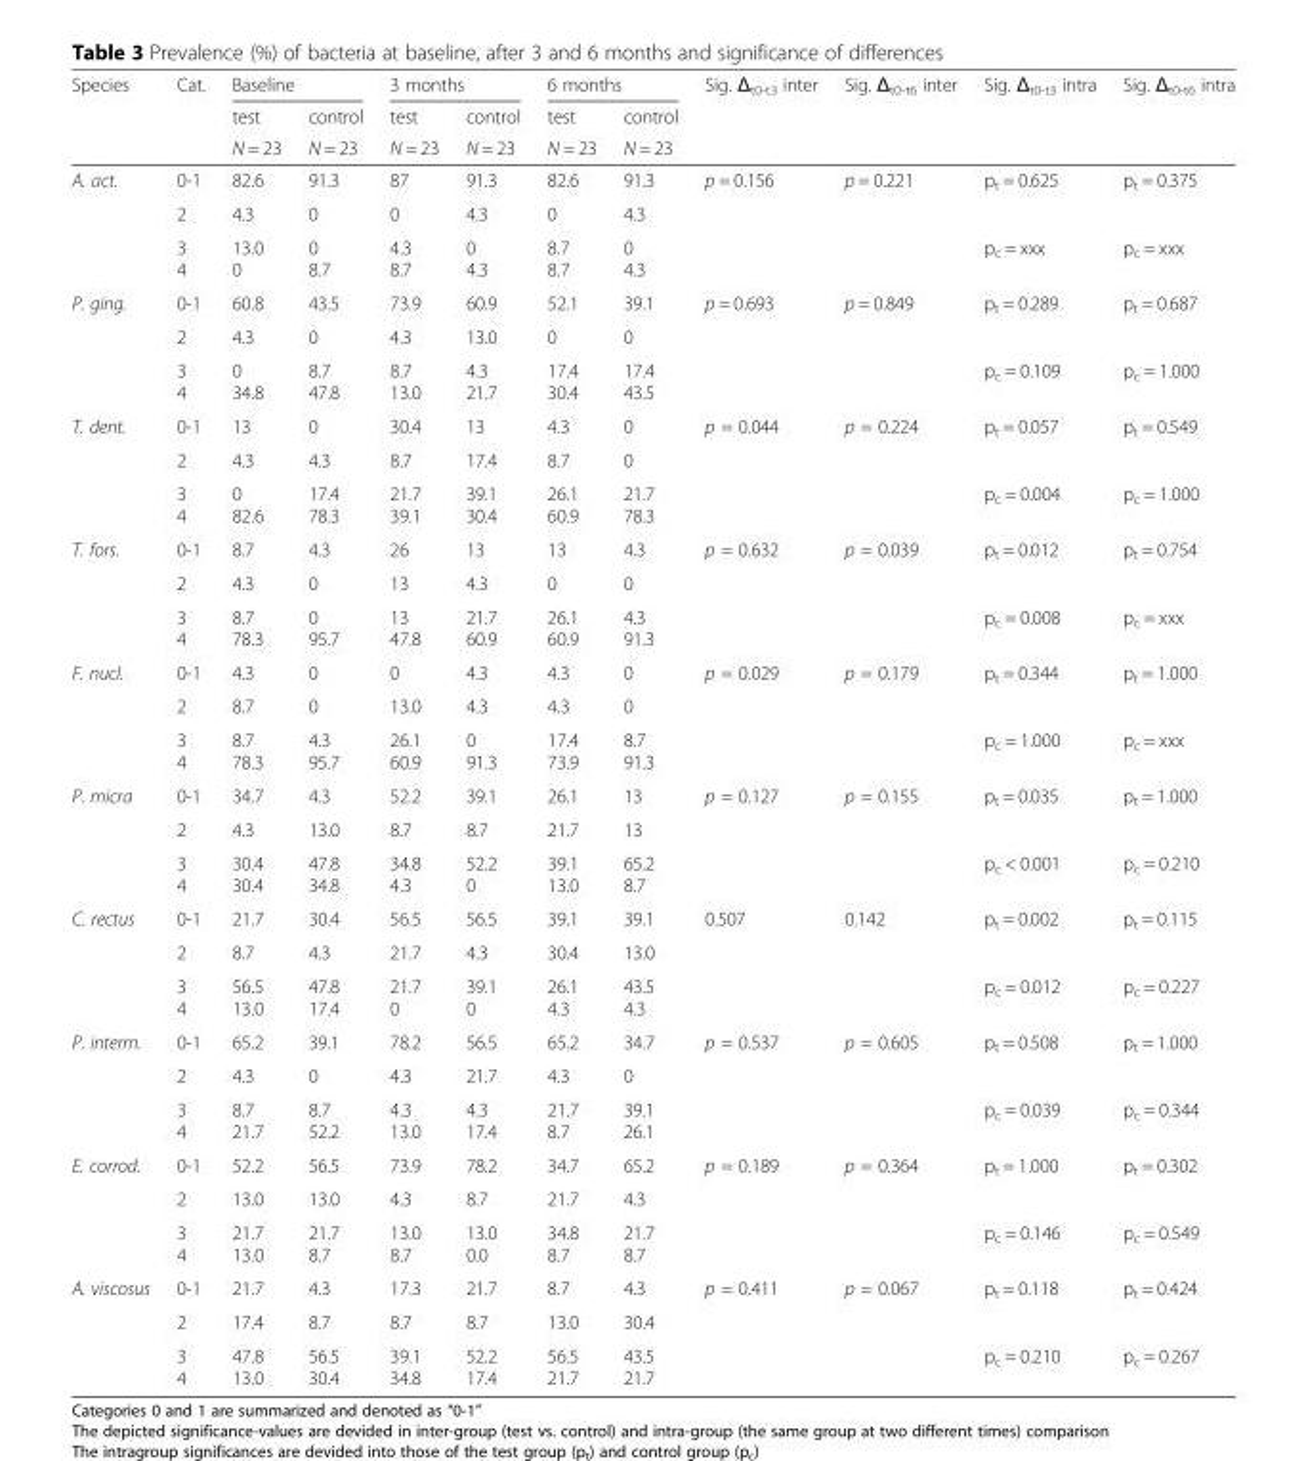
<table><thead><tr><td rowspan="3">Species</td><td rowspan="3">Cat.</td><td colspan="2">Baseline</td><td colspan="2">3 months</td><td colspan="2">6 months</td><td rowspan="3">Sig. Δ<sub>t0-t3</sub> inter</td><td rowspan="3">Sig. Δ<sub>t0-t6</sub> inter</td><td rowspan="3">Sig. Δ<sub>t0-t3</sub> intra</td><td rowspan="3">Sig. Δ<sub>t0-t6</sub> intra</td></tr><tr><td rowspan="2">test N = 23</td><td rowspan="2">control N = 23</td><td rowspan="2">test N = 23</td><td rowspan="2">control N = 23</td><td rowspan="2">test N = 23</td><td rowspan="2">control N = 23</td></tr><tr></tr></thead><tbody><tr><td rowspan="3">A. act.</td><td>0-1</td><td>82.6</td><td>91.3</td><td>87</td><td>91.3</td><td>82.6</td><td>91.3</td><td>p = 0.156</td><td>p = 0.221</td><td>p<sub>t</sub> = 0.625</td><td>p<sub>t</sub> = 0.375</td></tr><tr><td>2</td><td>4.3</td><td>0</td><td>0</td><td>4.3</td><td>0</td><td>4.3</td><td></td><td></td><td></td><td></td></tr><tr><td>3 4</td><td>13.0 0</td><td>0 8.7</td><td>4.3 8.7</td><td>0 4.3</td><td>8.7 8.7</td><td>0 4.3</td><td></td><td></td><td>p<sub>c</sub> = xxx</td><td>p<sub>c</sub> = xxx</td></tr><tr><td rowspan="3">P. ging.</td><td>0-1</td><td>60.8</td><td>43.5</td><td>73.9</td><td>60.9</td><td>52.1</td><td>39.1</td><td>p = 0.693</td><td>p = 0.849</td><td>p<sub>t</sub> = 0.289</td><td>p<sub>t</sub> = 0.687</td></tr><tr><td>2</td><td>4.3</td><td>0</td><td>4.3</td><td>13.0</td><td>0</td><td>0</td><td></td><td></td><td></td><td></td></tr><tr><td>3 4</td><td>0 34.8</td><td>8.7 47.8</td><td>8.7 13.0</td><td>4.3 21.7</td><td>17.4 30.4</td><td>17.4 43.5</td><td></td><td></td><td>p<sub>c</sub> = 0.109</td><td>p<sub>c</sub> = 1.000</td></tr><tr><td rowspan="3">T. dent.</td><td>0-1</td><td>13</td><td>0</td><td>30.4</td><td>13</td><td>4.3</td><td>0</td><td>p = 0.044</td><td>p = 0.224</td><td>p<sub>t</sub> = 0.057</td><td>p<sub>t</sub> = 0.549</td></tr><tr><td>2</td><td>4.3</td><td>4.3</td><td>8.7</td><td>17.4</td><td>8.7</td><td>0</td><td></td><td></td><td></td><td></td></tr><tr><td>3 4</td><td>0 82.6</td><td>17.4 78.3</td><td>21.7 39.1</td><td>39.1 30.4</td><td>26.1 60.9</td><td>21.7 78.3</td><td></td><td></td><td>p<sub>c</sub> = 0.004</td><td>p<sub>c</sub> = 1.000</td></tr><tr><td rowspan="3">T. fors.</td><td>0-1</td><td>8.7</td><td>4.3</td><td>26</td><td>13</td><td>13</td><td>4.3</td><td>p = 0.632</td><td>p = 0.039</td><td>p<sub>t</sub> = 0.012</td><td>p<sub>t</sub> = 0.754</td></tr><tr><td>2</td><td>4.3</td><td>0</td><td>13</td><td>4.3</td><td>0</td><td>0</td><td></td><td></td><td></td><td></td></tr><tr><td>3 4</td><td>8.7 78.3</td><td>0 95.7</td><td>13 47.8</td><td>21.7 60.9</td><td>26.1 60.9</td><td>4.3 91.3</td><td></td><td></td><td>p<sub>c</sub> = 0.008</td><td>p<sub>c</sub> = xxx</td></tr><tr><td rowspan="3">F. nucl.</td><td>0-1</td><td>4.3</td><td>0</td><td>0</td><td>4.3</td><td>4.3</td><td>0</td><td>p = 0.029</td><td>p = 0.179</td><td>p<sub>t</sub> = 0.344</td><td>p<sub>t</sub> = 1.000</td></tr><tr><td>2</td><td>8.7</td><td>0</td><td>13.0</td><td>4.3</td><td>4.3</td><td>0</td><td></td><td></td><td></td><td></td></tr><tr><td>3 4</td><td>8.7 78.3</td><td>4.3 95.7</td><td>26.1 60.9</td><td>0 91.3</td><td>17.4 73.9</td><td>8.7 91.3</td><td></td><td></td><td>p<sub>c</sub> = 1.000</td><td>p<sub>c</sub> = xxx</td></tr><tr><td rowspan="3">P. micra</td><td>0-1</td><td>34.7</td><td>4.3</td><td>52.2</td><td>39.1</td><td>26.1</td><td>13</td><td>p = 0.127</td><td>p = 0.155</td><td>p<sub>t</sub> = 0.035</td><td>p<sub>t</sub> = 1.000</td></tr><tr><td>2</td><td>4.3</td><td>13.0</td><td>8.7</td><td>8.7</td><td>21.7</td><td>13</td><td></td><td></td><td></td><td></td></tr><tr><td>3 4</td><td>30.4 30.4</td><td>47.8 34.8</td><td>34.8 4.3</td><td>52.2 0</td><td>39.1 13.0</td><td>65.2 8.7</td><td></td><td></td><td>p<sub>c</sub> &lt; 0.001</td><td>p<sub>c</sub> = 0.210</td></tr><tr><td rowspan="3">C. rectus</td><td>0-1</td><td>21.7</td><td>30.4</td><td>56.5</td><td>56.5</td><td>39.1</td><td>39.1</td><td>0.507</td><td>0.142</td><td>p<sub>t</sub> = 0.002</td><td>p<sub>t</sub> = 0.115</td></tr><tr><td>2</td><td>8.7</td><td>4.3</td><td>21.7</td><td>4.3</td><td>30.4</td><td>13.0</td><td></td><td></td><td></td><td></td></tr><tr><td>3 4</td><td>56.5 13.0</td><td>47.8 17.4</td><td>21.7 0</td><td>39.1 0</td><td>26.1 4.3</td><td>43.5 4.3</td><td></td><td></td><td>p<sub>c</sub> = 0.012</td><td>p<sub>c</sub> = 0.227</td></tr><tr><td rowspan="3">P. interm.</td><td>0-1</td><td>65.2</td><td>39.1</td><td>78.2</td><td>56.5</td><td>65.2</td><td>34.7</td><td>p = 0.537</td><td>p = 0.605</td><td>p<sub>t</sub> = 0.508</td><td>p<sub>t</sub> = 1.000</td></tr><tr><td>2</td><td>4.3</td><td>0</td><td>4.3</td><td>21.7</td><td>4.3</td><td>0</td><td></td><td></td><td></td><td></td></tr><tr><td>3 4</td><td>8.7 21.7</td><td>8.7 52.2</td><td>4.3 13.0</td><td>4.3 17.4</td><td>21.7 8.7</td><td>39.1 26.1</td><td></td><td></td><td>p<sub>c</sub> = 0.039</td><td>p<sub>c</sub> = 0.344</td></tr><tr><td rowspan="3">E. corrod.</td><td>0-1</td><td>52.2</td><td>56.5</td><td>73.9</td><td>78.2</td><td>34.7</td><td>65.2</td><td>p = 0.189</td><td>p = 0.364</td><td>p<sub>t</sub> = 1.000</td><td>p<sub>t</sub> = 0.302</td></tr><tr><td>2</td><td>13.0</td><td>13.0</td><td>4.3</td><td>8.7</td><td>21.7</td><td>4.3</td><td></td><td></td><td></td><td></td></tr><tr><td>3 4</td><td>21.7 13.0</td><td>21.7 8.7</td><td>13.0 8.7</td><td>13.0 0.0</td><td>34.8 8.7</td><td>21.7 8.7</td><td></td><td></td><td>p<sub>c</sub> = 0.146</td><td>p<sub>c</sub> = 0.549</td></tr><tr><td rowspan="3">A. viscosus</td><td>0-1</td><td>21.7</td><td>4.3</td><td>17.3</td><td>21.7</td><td>8.7</td><td>4.3</td><td>p = 0.411</td><td>p = 0.067</td><td>p<sub>t</sub> = 0.118</td><td>p<sub>t</sub> = 0.424</td></tr><tr><td>2</td><td>17.4</td><td>8.7</td><td>8.7</td><td>8.7</td><td>13.0</td><td>30.4</td><td></td><td></td><td></td><td></td></tr><tr><td>3 4</td><td>47.8 13.0</td><td>56.5 30.4</td><td>39.1 34.8</td><td>52.2 17.4</td><td>56.5 21.7</td><td>43.5 21.7</td><td></td><td></td><td>p<sub>c</sub> = 0.210</td><td>p<sub>c</sub> = 0.267</td></tr></tbody></table>